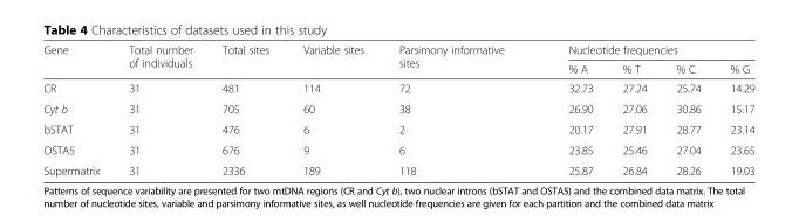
<table><thead><tr><td rowspan="2">Gene</td><td rowspan="2">Total number of individuals</td><td rowspan="2">Total sites</td><td rowspan="2">Variable sites</td><td rowspan="2">Parsimony informative sites</td><td colspan="4">Nucleotide frequencies</td></tr><tr><td>% A</td><td>% T</td><td>% C</td><td>% G</td></tr></thead><tbody><tr><td>CR</td><td>31</td><td>481</td><td>114</td><td>72</td><td>32.73</td><td>27.24</td><td>25.74</td><td>14.29</td></tr><tr><td>Cyt b</td><td>31</td><td>705</td><td>60</td><td>38</td><td>26.90</td><td>27.06</td><td>30.86</td><td>15.17</td></tr><tr><td>bSTAT</td><td>31</td><td>476</td><td>6</td><td>2</td><td>20.17</td><td>27.91</td><td>28.77</td><td>23.14</td></tr><tr><td>OSTA5</td><td>31</td><td>676</td><td>9</td><td>6</td><td>23.85</td><td>25.46</td><td>27.04</td><td>23.65</td></tr><tr><td>Supermatrix</td><td>31</td><td>2336</td><td>189</td><td>118</td><td>25.87</td><td>26.84</td><td>28.26</td><td>19.03</td></tr></tbody></table>